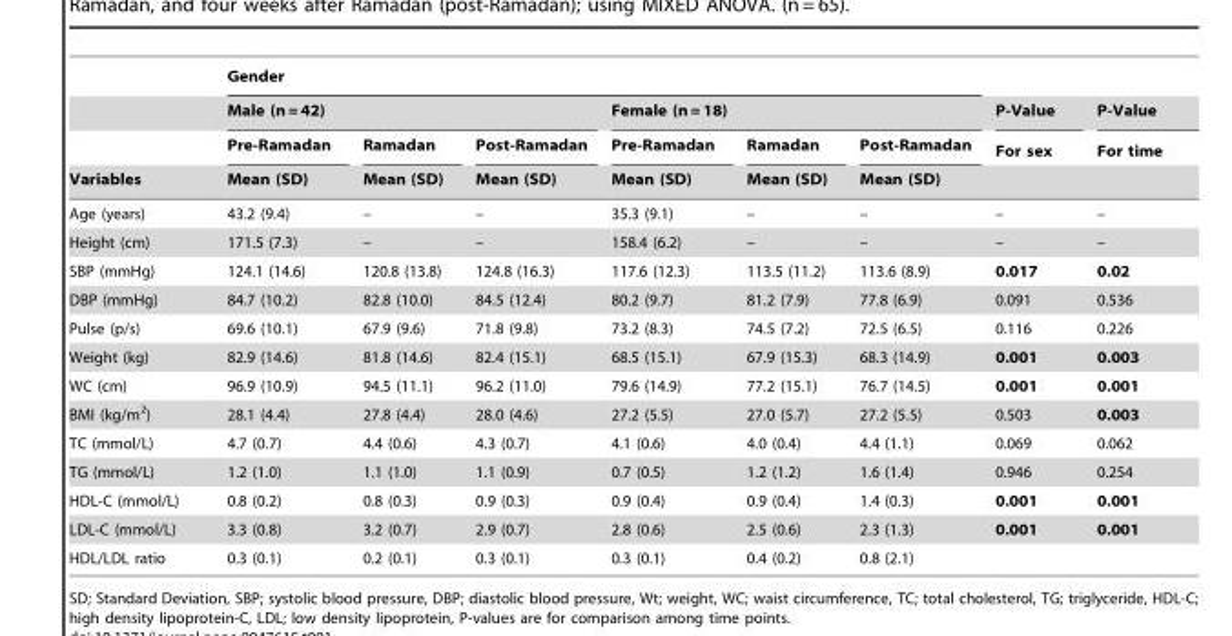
<table><thead><tr><td rowspan="4">Variables</td><td colspan="6">Gender</td><td rowspan="4">P-Value For sex</td><td rowspan="4">P-Value For time</td></tr><tr><td colspan="3">Male (n = 42)</td><td colspan="3">Female (n = 18)</td></tr><tr><td rowspan="2">Pre-Ramadan Mean (SD)</td><td rowspan="2">Ramadan Mean (SD)</td><td rowspan="2">Post-Ramadan Mean (SD)</td><td rowspan="2">Pre-Ramadan Mean (SD)</td><td rowspan="2">Ramadan Mean (SD)</td><td rowspan="2">Post-Ramadan Mean (SD)</td></tr><tr></tr></thead><tbody><tr><td>Age (years)</td><td>43.2 (9.4)</td><td>–</td><td>–</td><td>35.3 (9.1)</td><td>–</td><td>–</td><td>–</td><td>–</td></tr><tr><td>Height (cm)</td><td>171.5 (7.3)</td><td>–</td><td>–</td><td>158.4 (6.2)</td><td>–</td><td>–</td><td>–</td><td>–</td></tr><tr><td>SBP (mmHg)</td><td>124.1 (14.6)</td><td>120.8 (13.8)</td><td>124.8 (16.3)</td><td>117.6 (12.3)</td><td>113.5 (11.2)</td><td>113.6 (8.9)</td><td>0.017</td><td>0.02</td></tr><tr><td>DBP (mmHg)</td><td>84.7 (10.2)</td><td>82.8 (10.0)</td><td>84.5 (12.4)</td><td>80.2 (9.7)</td><td>81.2 (7.9)</td><td>77.8 (6.9)</td><td>0.091</td><td>0.536</td></tr><tr><td>Pulse (p/s)</td><td>69.6 (10.1)</td><td>67.9 (9.6)</td><td>71.8 (9.8)</td><td>73.2 (8.3)</td><td>74.5 (7.2)</td><td>72.5 (6.5)</td><td>0.116</td><td>0.226</td></tr><tr><td>Weight (kg)</td><td>82.9 (14.6)</td><td>81.8 (14.6)</td><td>82.4 (15.1)</td><td>68.5 (15.1)</td><td>67.9 (15.3)</td><td>68.3 (14.9)</td><td>0.001</td><td>0.003</td></tr><tr><td>WC (cm)</td><td>96.9 (10.9)</td><td>94.5 (11.1)</td><td>96.2 (11.0)</td><td>79.6 (14.9)</td><td>77.2 (15.1)</td><td>76.7 (14.5)</td><td>0.001</td><td>0.001</td></tr><tr><td>BMI (kg/m<sup>2</sup>)</td><td>28.1 (4.4)</td><td>27.8 (4.4)</td><td>28.0 (4.6)</td><td>27.2 (5.5)</td><td>27.0 (5.7)</td><td>27.2 (5.5)</td><td>0.503</td><td>0.003</td></tr><tr><td>TC (mmol/L)</td><td>4.7 (0.7)</td><td>4.4 (0.6)</td><td>4.3 (0.7)</td><td>4.1 (0.6)</td><td>4.0 (0.4)</td><td>4.4 (1.1)</td><td>0.069</td><td>0.062</td></tr><tr><td>TG (mmol/L)</td><td>1.2 (1.0)</td><td>1.1 (1.0)</td><td>1.1 (0.9)</td><td>0.7 (0.5)</td><td>1.2 (1.2)</td><td>1.6 (1.4)</td><td>0.946</td><td>0.254</td></tr><tr><td>HDL-C (mmol/L)</td><td>0.8 (0.2)</td><td>0.8 (0.3)</td><td>0.9 (0.3)</td><td>0.9 (0.4)</td><td>0.9 (0.4)</td><td>1.4 (0.3)</td><td>0.001</td><td>0.001</td></tr><tr><td>LDL-C (mmol/L)</td><td>3.3 (0.8)</td><td>3.2 (0.7)</td><td>2.9 (0.7)</td><td>2.8 (0.6)</td><td>2.5 (0.6)</td><td>2.3 (1.3)</td><td>0.001</td><td>0.001</td></tr><tr><td>HDL/LDL ratio</td><td>0.3 (0.1)</td><td>0.2 (0.1)</td><td>0.3 (0.1)</td><td>0.3 (0.1)</td><td>0.4 (0.2)</td><td>0.8 (2.1)</td><td></td><td></td></tr></tbody></table>